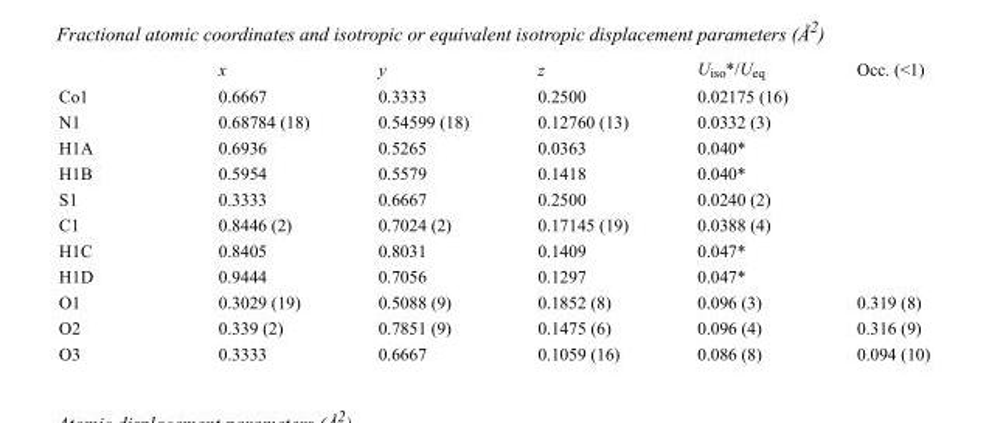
<table><thead><tr><td></td><td>x</td><td>y</td><td>z</td><td>U<sub>iso</sub>*/U<sub>eq</sub></td><td>Occ. (&lt;1)</td></tr></thead><tbody><tr><td>Co1</td><td>0.6667</td><td>0.3333</td><td>0.2500</td><td>0.02175 (16)</td><td></td></tr><tr><td>N1</td><td>0.68784 (18)</td><td>0.54599 (18)</td><td>0.12760 (13)</td><td>0.0332 (3)</td><td></td></tr><tr><td>H1A</td><td>0.6936</td><td>0.5265</td><td>0.0363</td><td>0.040*</td><td></td></tr><tr><td>H1B</td><td>0.5954</td><td>0.5579</td><td>0.1418</td><td>0.040*</td><td></td></tr><tr><td>S1</td><td>0.3333</td><td>0.6667</td><td>0.2500</td><td>0.0240 (2)</td><td></td></tr><tr><td>C1</td><td>0.8446 (2)</td><td>0.7024 (2)</td><td>0.17145 (19)</td><td>0.0388 (4)</td><td></td></tr><tr><td>H1C</td><td>0.8405</td><td>0.8031</td><td>0.1409</td><td>0.047*</td><td></td></tr><tr><td>H1D</td><td>0.9444</td><td>0.7056</td><td>0.1297</td><td>0.047*</td><td></td></tr><tr><td>O1</td><td>0.3029 (19)</td><td>0.5088 (9)</td><td>0.1852 (8)</td><td>0.096 (3)</td><td>0.319 (8)</td></tr><tr><td>O2</td><td>0.339 (2)</td><td>0.7851 (9)</td><td>0.1475 (6)</td><td>0.096 (4)</td><td>0.316 (9)</td></tr><tr><td>O3</td><td>0.3333</td><td>0.6667</td><td>0.1059 (16)</td><td>0.086 (8)</td><td>0.094 (10)</td></tr></tbody></table>